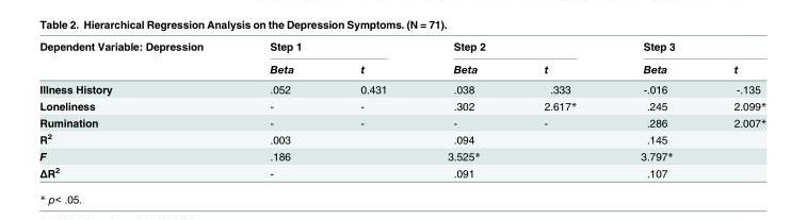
<table><thead><tr><td rowspan="2">Dependent Variable: Depression</td><td colspan="2">Step 1</td><td colspan="2">Step 2</td><td colspan="2">Step 3</td></tr><tr><td>Beta</td><td>t</td><td>Beta</td><td>t</td><td>Beta</td><td>t</td></tr></thead><tbody><tr><td>Illness History</td><td>.052</td><td>0.431</td><td>.038</td><td>.333</td><td>-.016</td><td>-.135</td></tr><tr><td>Loneliness</td><td>-</td><td>-</td><td>.302</td><td>2.617*</td><td>.245</td><td>2.099*</td></tr><tr><td>Rumination</td><td>-</td><td>-</td><td>-</td><td>-</td><td>.286</td><td>2.007*</td></tr><tr><td>R<sup>2</sup></td><td colspan="2">.003</td><td colspan="2">.094</td><td colspan="2">.145</td></tr><tr><td>F</td><td colspan="2">.186</td><td colspan="2">3.525*</td><td colspan="2">3.797*</td></tr><tr><td>ΔR<sup>2</sup></td><td colspan="2">-</td><td colspan="2">.091</td><td colspan="2">.107</td></tr></tbody></table>